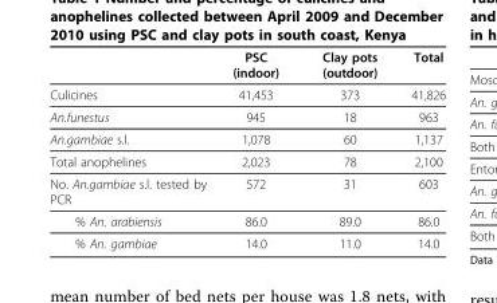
<table><thead><tr><td></td><td>PSC (indoor)</td><td>Clay pots (outdoor)</td><td>Total</td></tr></thead><tbody><tr><td>Culicines</td><td>41,453</td><td>373</td><td>41,826</td></tr><tr><td>An.funestus</td><td>945</td><td>18</td><td>963</td></tr><tr><td>An.gambiae s.l.</td><td>1,078</td><td>60</td><td>1,137</td></tr><tr><td>Total anophelines</td><td>2,023</td><td>78</td><td>2,100</td></tr><tr><td>No. An.gambiae s.l. tested by PCR</td><td>572</td><td>31</td><td>603</td></tr><tr><td>% An. arabiensis</td><td>86.0</td><td>89.0</td><td>86.0</td></tr><tr><td>% An. gambiae</td><td>14.0</td><td>11.0</td><td>14.0</td></tr></tbody></table>